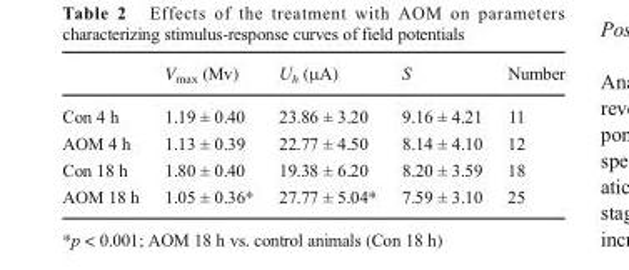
<table><thead><tr><td></td><td>V<sub>max</sub> (Mv)</td><td>U<sub>h</sub> (μA)</td><td>S</td><td>Number</td></tr></thead><tbody><tr><td>Con 4 h</td><td>1.19 ± 0.40</td><td>23.86 ± 3.20</td><td>9.16 ± 4.21</td><td>11</td></tr><tr><td>AOM 4 h</td><td>1.13 ± 0.39</td><td>22.77 ± 4.50</td><td>8.14 ± 4.10</td><td>12</td></tr><tr><td>Con 18 h</td><td>1.80 ± 0.40</td><td>19.38 ± 6.20</td><td>8.20 ± 3.59</td><td>18</td></tr><tr><td>AOM 18 h</td><td>1.05 ± 0.36*</td><td>27.77 ± 5.04*</td><td>7.59 ± 3.10</td><td>25</td></tr></tbody></table>